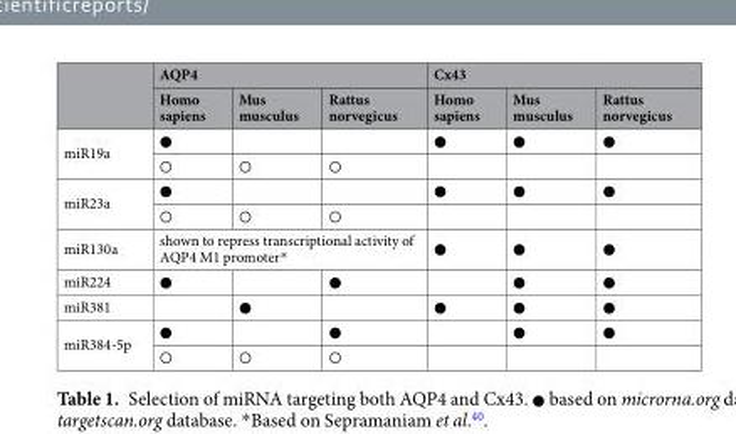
<table><thead><tr><td rowspan="2"></td><td colspan="3">AQP4</td><td colspan="3">Cx43</td></tr><tr><td>Homo sapiens</td><td>Mus musculus</td><td>Rattus norvegicus</td><td>Homo sapiens</td><td>Mus musculus</td><td>Rattus norvegicus</td></tr></thead><tbody><tr><td rowspan="2">miR19a</td><td>●</td><td></td><td></td><td>●</td><td>●</td><td>●</td></tr><tr><td>○</td><td>○</td><td>○</td><td></td><td></td><td></td></tr><tr><td rowspan="2">miR23a</td><td>●</td><td></td><td></td><td>●</td><td>●</td><td>●</td></tr><tr><td>○</td><td>○</td><td>○</td><td></td><td></td><td></td></tr><tr><td>miR130a</td><td colspan="3">shown to repress transcriptional activity of AQP4 M1 promoter*</td><td>●</td><td>●</td><td>●</td></tr><tr><td>miR224</td><td>●</td><td></td><td>●</td><td></td><td>●</td><td>●</td></tr><tr><td>miR381</td><td></td><td>●</td><td></td><td>●</td><td>●</td><td>●</td></tr><tr><td rowspan="2">miR384-5p</td><td>●</td><td></td><td>●</td><td></td><td>●</td><td>●</td></tr><tr><td>○</td><td>○</td><td>○</td><td></td><td></td><td></td></tr></tbody></table>